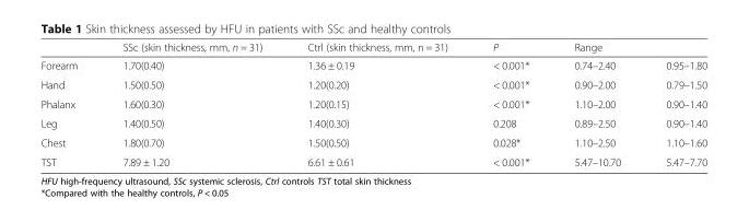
<table><thead><tr><td rowspan="2">Forearm</td><td rowspan="2">SSc (skin thickness, mm, n = 31) 1.70(0.40)</td><td rowspan="2">Ctrl (skin thickness, mm, n = 31) 1.36 ± 0.19</td><td rowspan="2">P &lt; 0.001*</td><td colspan="2">Range</td></tr><tr><td>0.74–2.40</td><td>0.95–1.80</td></tr></thead><tbody><tr><td>Hand</td><td>1.50(0.50)</td><td>1.20(0.20)</td><td>&lt; 0.001*</td><td>0.90–2.00</td><td>0.79–1.50</td></tr><tr><td>Phalanx</td><td>1.60(0.30)</td><td>1.20(0.15)</td><td>&lt; 0.001*</td><td>1.10–2.00</td><td>0.90–1.40</td></tr><tr><td>Leg</td><td>1.40(0.50)</td><td>1.40(0.30)</td><td>0.208</td><td>0.89–2.50</td><td>0.90–1.40</td></tr><tr><td>Chest</td><td>1.80(0.70)</td><td>1.50(0.50)</td><td>0.028*</td><td>1.10–2.50</td><td>1.10–1.60</td></tr><tr><td>TST</td><td>7.89 ± 1.20</td><td>6.61 ± 0.61</td><td>&lt; 0.001*</td><td>5.47–10.70</td><td>5.47–7.70</td></tr></tbody></table>